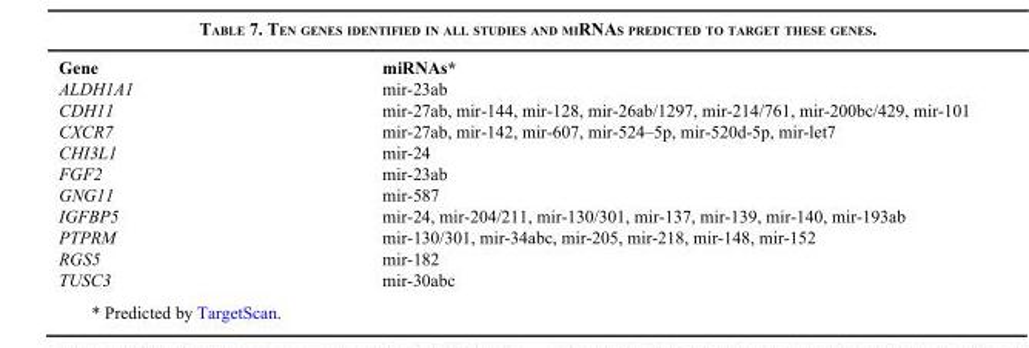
<table><thead><tr><td>Gene</td><td>miRNAs*</td></tr></thead><tbody><tr><td>ALDH1A1</td><td>mir-23ab</td></tr><tr><td>CDH11</td><td>mir-27ab, mir-144, mir-128, mir-26ab/1297, mir-214/761, mir-200bc/429, mir-101</td></tr><tr><td>CXCR7</td><td>mir-27ab, mir-142, mir-607, mir-524–5p, mir-520d-5p, mir-let7</td></tr><tr><td>CHI3L1</td><td>mir-24</td></tr><tr><td>FGF2</td><td>mir-23ab</td></tr><tr><td>GNG11</td><td>mir-587</td></tr><tr><td>IGFBP5</td><td>mir-24, mir-204/211, mir-130/301, mir-137, mir-139, mir-140, mir-193ab</td></tr><tr><td>PTPRM</td><td>mir-130/301, mir-34abc, mir-205, mir-218, mir-148, mir-152</td></tr><tr><td>RGS5</td><td>mir-182</td></tr><tr><td>TUSC3</td><td>mir-30abc</td></tr></tbody></table>